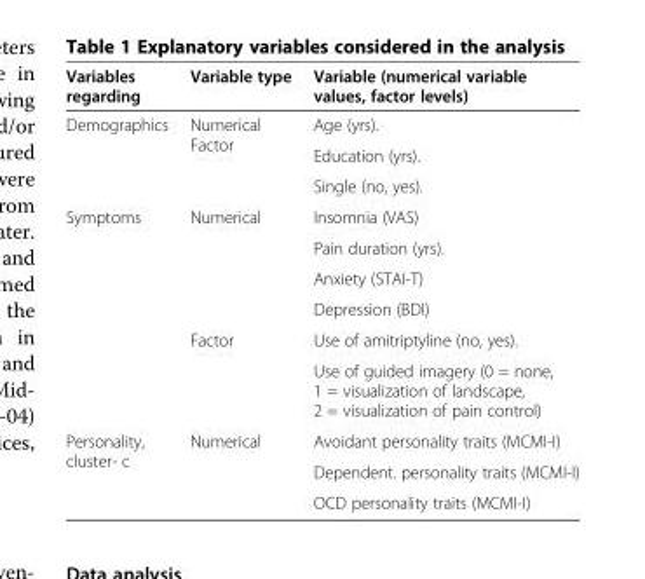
<table><thead><tr><td>Variables regarding</td><td>Variable type</td><td>Variable (numerical variable values, factor levels)</td></tr></thead><tbody><tr><td rowspan="3">Demographics</td><td rowspan="3">Numerical Factor</td><td>Age (yrs).</td></tr><tr><td>Education (yrs).</td></tr><tr><td>Single (no, yes).</td></tr><tr><td rowspan="6">Symptoms</td><td rowspan="4">Numerical</td><td>Insomnia (VAS)</td></tr><tr><td>Pain duration (yrs).</td></tr><tr><td>Anxiety (STAI-T)</td></tr><tr><td>Depression (BDI)</td></tr><tr><td rowspan="2">Factor</td><td>Use of amitriptyline (no, yes).</td></tr><tr><td>Use of guided imagery (0 = none, 1 = visualization of landscape, 2 = visualization of pain control)</td></tr><tr><td rowspan="3">Personality, cluster- c</td><td rowspan="2">Numerical</td><td>Avoidant personality traits (MCMI-I)</td></tr><tr><td>Dependent. personality traits (MCMI-I)</td></tr><tr><td></td><td>OCD personality traits (MCMI-I)</td></tr></tbody></table>